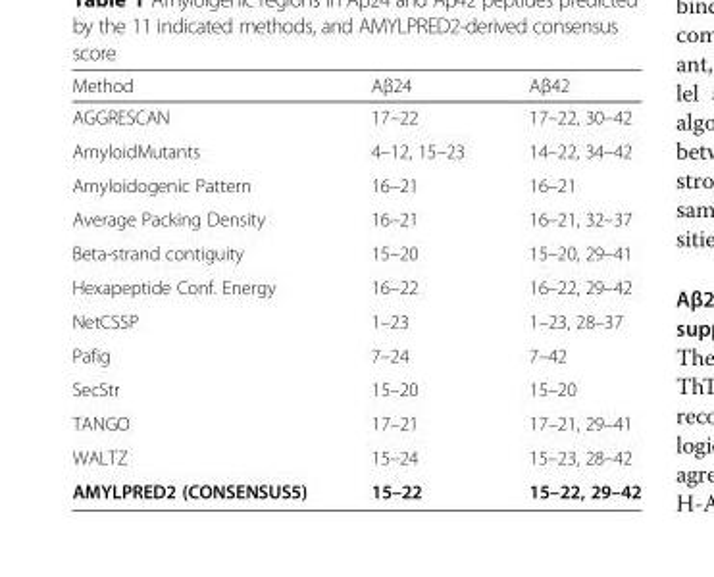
<table><thead><tr><td>Method</td><td>Aβ24</td><td>Aβ42</td></tr></thead><tbody><tr><td>AGGRESCAN</td><td>17–22</td><td>17–22, 30–42</td></tr><tr><td>AmyloidMutants</td><td>4–12, 15–23</td><td>14–22, 34–42</td></tr><tr><td>Amyloidogenic Pattern</td><td>16–21</td><td>16–21</td></tr><tr><td>Average Packing Density</td><td>16–21</td><td>16–21, 32–37</td></tr><tr><td>Beta-strand contiguity</td><td>15–20</td><td>15–20, 29–41</td></tr><tr><td>Hexapeptide Conf. Energy</td><td>16–22</td><td>16–22, 29–42</td></tr><tr><td>NetCSSP</td><td>1–23</td><td>1–23, 28–37</td></tr><tr><td>Pafig</td><td>7–24</td><td>7–42</td></tr><tr><td>SecStr</td><td>15–20</td><td>15–20</td></tr><tr><td>TANGO</td><td>17–21</td><td>17–21, 29–41</td></tr><tr><td>WALTZ</td><td>15–24</td><td>15–23, 28–42</td></tr><tr><td>AMYLPRED2 (CONSENSUS5)</td><td>15–22</td><td>15–22, 29–42</td></tr></tbody></table>